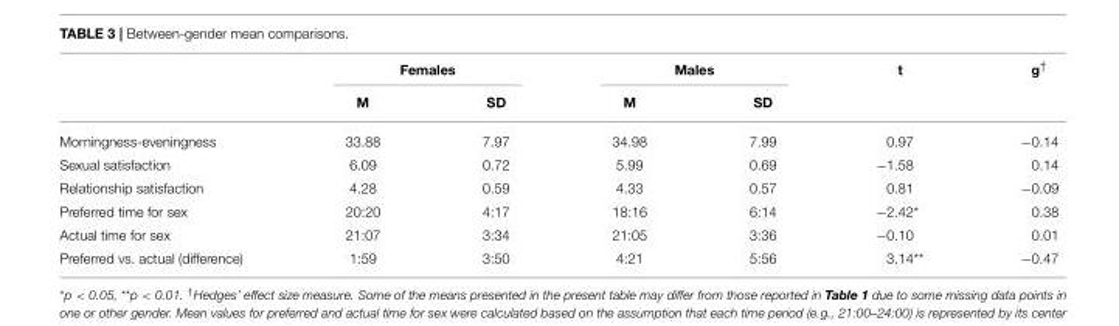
<table><thead><tr><td rowspan="2"></td><td colspan="2">Females</td><td colspan="2">Males</td><td rowspan="2">t</td><td rowspan="2">g<sup>†</sup></td></tr><tr><td>M</td><td>SD</td><td>M</td><td>SD</td></tr></thead><tbody><tr><td>Morningness-eveningness</td><td>33.88</td><td>7.97</td><td>34.98</td><td>7.99</td><td>0.97</td><td>−0.14</td></tr><tr><td>Sexual satisfaction</td><td>6.09</td><td>0.72</td><td>5.99</td><td>0.69</td><td>−1.58</td><td>0.14</td></tr><tr><td>Relationship satisfaction</td><td>4.28</td><td>0.59</td><td>4.33</td><td>0.57</td><td>0.81</td><td>−0.09</td></tr><tr><td>Preferred time for sex</td><td>20:20</td><td>4:17</td><td>18:16</td><td>6:14</td><td>−2.42*</td><td>0.38</td></tr><tr><td>Actual time for sex</td><td>21:07</td><td>3:34</td><td>21:05</td><td>3:36</td><td>−0.10</td><td>0.01</td></tr><tr><td>Preferred vs. actual (difference)</td><td>1:59</td><td>3:50</td><td>4:21</td><td>5:56</td><td>3.14**</td><td>−0.47</td></tr></tbody></table>